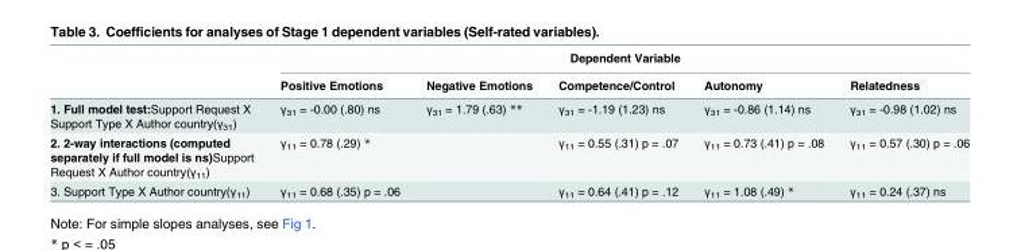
<table><thead><tr><td rowspan="2"></td><td colspan="5">Dependent Variable</td></tr><tr><td>Positive Emotions</td><td>Negative Emotions</td><td>Competence/Control</td><td>Autonomy</td><td>Relatedness</td></tr></thead><tbody><tr><td>1. Full model test:Support Request X Support Type X Author country(γ<sub>31</sub>)</td><td>γ<sub>31</sub> = -0.00 (.80) ns</td><td>γ<sub>31</sub> = 1.79 (.63) **</td><td>γ<sub>31</sub> = -1.19 (1.23) ns</td><td>γ<sub>31</sub> = -0.86 (1.14) ns</td><td>γ<sub>31</sub> = -0.98 (1.02) ns</td></tr><tr><td>2. 2-way interactions (computed separately if full model is ns)Support Request X Author country(γ<sub>11</sub>)</td><td>γ<sub>11</sub> = 0.78 (.29) *</td><td></td><td>γ<sub>11</sub> = 0.55 (.31) p = .07</td><td>γ<sub>11</sub> = 0.73 (.41) p = .08</td><td>γ<sub>11</sub> = 0.57 (.30) p = .06</td></tr><tr><td>3. Support Type X Author country(γ<sub>11</sub>)</td><td>γ<sub>11</sub> = 0.68 (.35) p = .06</td><td></td><td>γ<sub>11</sub> = 0.64 (.41) p = .12</td><td>γ<sub>11</sub> = 1.08 (.49) *</td><td>γ<sub>11</sub> = 0.24 (.37) ns</td></tr></tbody></table>